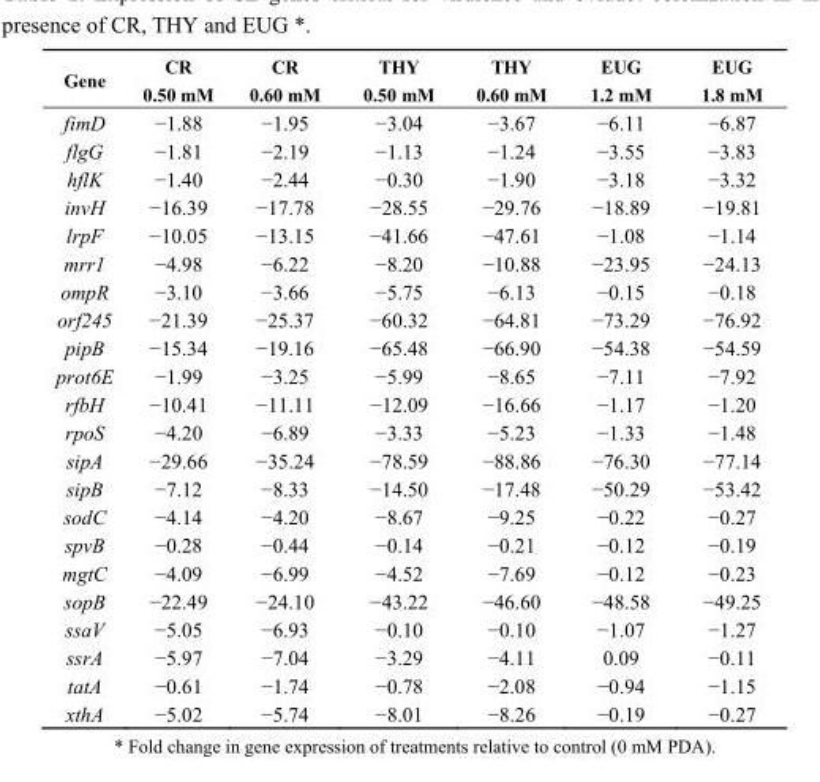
<table><thead><tr><td>Gene</td><td>CR 0.50 mM</td><td>CR 0.60 mM</td><td>THY 0.50 mM</td><td>THY 0.60 mM</td><td>EUG 1.2 mM</td><td>EUG 1.8 mM</td></tr></thead><tbody><tr><td>fimD</td><td>−1.88</td><td>−1.95</td><td>−3.04</td><td>−3.67</td><td>−6.11</td><td>−6.87</td></tr><tr><td>flgG</td><td>−1.81</td><td>−2.19</td><td>−1.13</td><td>−1.24</td><td>−3.55</td><td>−3.83</td></tr><tr><td>hflK</td><td>−1.40</td><td>−2.44</td><td>−0.30</td><td>−1.90</td><td>−3.18</td><td>−3.32</td></tr><tr><td>invH</td><td>−16.39</td><td>−17.78</td><td>−28.55</td><td>−29.76</td><td>−18.89</td><td>−19.81</td></tr><tr><td>lrpF</td><td>−10.05</td><td>−13.15</td><td>−41.66</td><td>−47.61</td><td>−1.08</td><td>−1.14</td></tr><tr><td>mrr1</td><td>−4.98</td><td>−6.22</td><td>−8.20</td><td>−10.88</td><td>−23.95</td><td>−24.13</td></tr><tr><td>ompR</td><td>−3.10</td><td>−3.66</td><td>−5.75</td><td>−6.13</td><td>−0.15</td><td>−0.18</td></tr><tr><td>orf245</td><td>−21.39</td><td>−25.37</td><td>−60.32</td><td>−64.81</td><td>−73.29</td><td>−76.92</td></tr><tr><td>pipB</td><td>−15.34</td><td>−19.16</td><td>−65.48</td><td>−66.90</td><td>−54.38</td><td>−54.59</td></tr><tr><td>prot6E</td><td>−1.99</td><td>−3.25</td><td>−5.99</td><td>−8.65</td><td>−7.11</td><td>−7.92</td></tr><tr><td>rfbH</td><td>−10.41</td><td>−11.11</td><td>−12.09</td><td>−16.66</td><td>−1.17</td><td>−1.20</td></tr><tr><td>rpoS</td><td>−4.20</td><td>−6.89</td><td>−3.33</td><td>−5.23</td><td>−1.33</td><td>−1.48</td></tr><tr><td>sipA</td><td>−29.66</td><td>−35.24</td><td>−78.59</td><td>−88.86</td><td>−76.30</td><td>−77.14</td></tr><tr><td>sipB</td><td>−7.12</td><td>−8.33</td><td>−14.50</td><td>−17.48</td><td>−50.29</td><td>−53.42</td></tr><tr><td>sodC</td><td>−4.14</td><td>−4.20</td><td>−8.67</td><td>−9.25</td><td>−0.22</td><td>−0.27</td></tr><tr><td>spvB</td><td>−0.28</td><td>−0.44</td><td>−0.14</td><td>−0.21</td><td>−0.12</td><td>−0.19</td></tr><tr><td>mgtC</td><td>−4.09</td><td>−6.99</td><td>−4.52</td><td>−7.69</td><td>−0.12</td><td>−0.23</td></tr><tr><td>sopB</td><td>−22.49</td><td>−24.10</td><td>−43.22</td><td>−46.60</td><td>−48.58</td><td>−49.25</td></tr><tr><td>ssaV</td><td>−5.05</td><td>−6.93</td><td>−0.10</td><td>−0.10</td><td>−1.07</td><td>−1.27</td></tr><tr><td>ssrA</td><td>−5.97</td><td>−7.04</td><td>−3.29</td><td>−4.11</td><td>0.09</td><td>−0.11</td></tr><tr><td>tatA</td><td>−0.61</td><td>−1.74</td><td>−0.78</td><td>−2.08</td><td>−0.94</td><td>−1.15</td></tr><tr><td>xthA</td><td>−5.02</td><td>−5.74</td><td>−8.01</td><td>−8.26</td><td>−0.19</td><td>−0.27</td></tr></tbody></table>